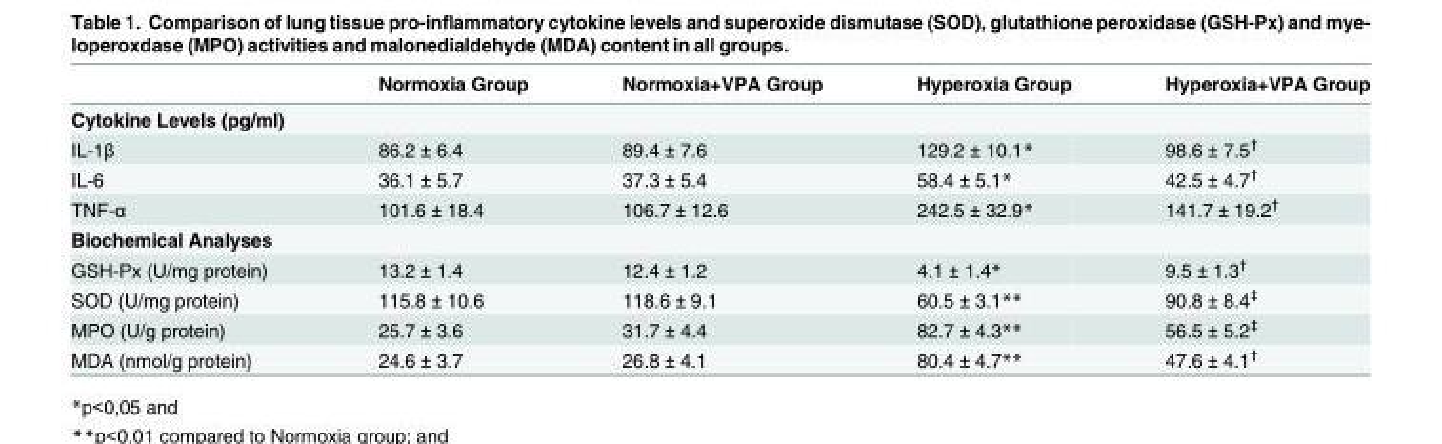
<table><thead><tr><td></td><td>Normoxia Group</td><td>Normoxia+VPA Group</td><td>Hyperoxia Group</td><td>Hyperoxia+VPA Group</td></tr></thead><tbody><tr><td colspan="5">Cytokine Levels (pg/ml)</td></tr><tr><td>IL-1β</td><td>86.2 ± 6.4</td><td>89.4 ± 7.6</td><td>129.2 ± 10.1*</td><td>98.6 ± 7.5<sup>†</sup></td></tr><tr><td>IL-6</td><td>36.1 ± 5.7</td><td>37.3 ± 5.4</td><td>58.4 ± 5.1*</td><td>42.5 ± 4.7<sup>†</sup></td></tr><tr><td>TNF-α</td><td>101.6 ± 18.4</td><td>106.7 ± 12.6</td><td>242.5 ± 32.9*</td><td>141.7 ± 19.2<sup>†</sup></td></tr><tr><td colspan="5">Biochemical Analyses</td></tr><tr><td>GSH-Px (U/mg protein)</td><td>13.2 ± 1.4</td><td>12.4 ± 1.2</td><td>4.1 ± 1.4*</td><td>9.5 ± 1.3<sup>†</sup></td></tr><tr><td>SOD (U/mg protein)</td><td>115.8 ± 10.6</td><td>118.6 ± 9.1</td><td>60.5 ± 3.1**</td><td>90.8 ± 8.4<sup>‡</sup></td></tr><tr><td>MPO (U/g protein)</td><td>25.7 ± 3.6</td><td>31.7 ± 4.4</td><td>82.7 ± 4.3**</td><td>56.5 ± 5.2<sup>‡</sup></td></tr><tr><td>MDA (nmol/g protein)</td><td>24.6 ± 3.7</td><td>26.8 ± 4.1</td><td>80.4 ± 4.7**</td><td>47.6 ± 4.1<sup>†</sup></td></tr></tbody></table>